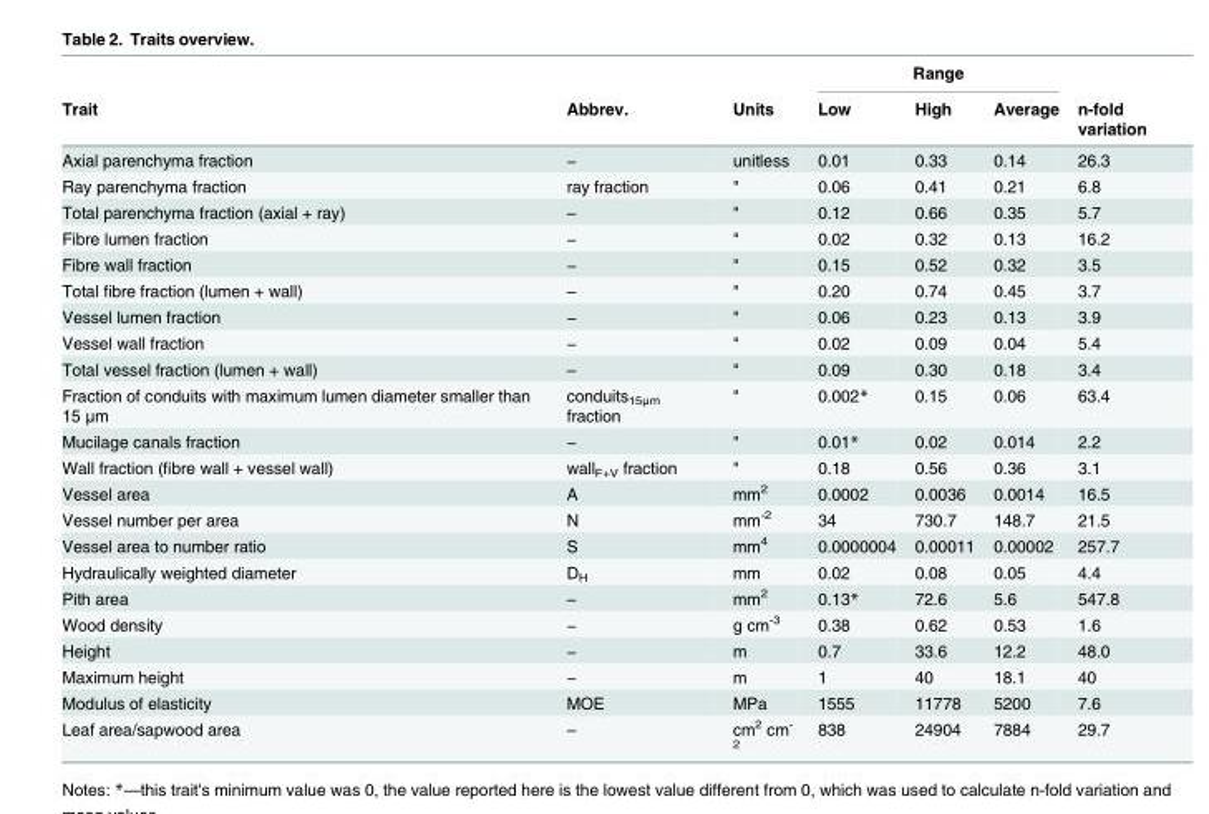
<table><thead><tr><td rowspan="2">Trait</td><td rowspan="2">Abbrev.</td><td rowspan="2">Units</td><td colspan="3">Range</td><td rowspan="2">n-fold variation</td></tr><tr><td>Low</td><td>High</td><td>Average</td></tr></thead><tbody><tr><td>Axial parenchyma fraction</td><td>−</td><td>unitless</td><td>0.01</td><td>0.33</td><td>0.14</td><td>26.3</td></tr><tr><td>Ray parenchyma fraction</td><td>ray fraction</td><td>&quot;</td><td>0.06</td><td>0.41</td><td>0.21</td><td>6.8</td></tr><tr><td>Total parenchyma fraction (axial + ray)</td><td>–</td><td>&quot;</td><td>0.12</td><td>0.66</td><td>0.35</td><td>5.7</td></tr><tr><td>Fibre lumen fraction</td><td>−</td><td>&quot;</td><td>0.02</td><td>0.32</td><td>0.13</td><td>16.2</td></tr><tr><td>Fibre wall fraction</td><td>−</td><td>&quot;</td><td>0.15</td><td>0.52</td><td>0.32</td><td>3.5</td></tr><tr><td>Total fibre fraction (lumen + wall)</td><td>–</td><td>&quot;</td><td>0.20</td><td>0.74</td><td>0.45</td><td>3.7</td></tr><tr><td>Vessel lumen fraction</td><td>−</td><td>&quot;</td><td>0.06</td><td>0.23</td><td>0.13</td><td>3.9</td></tr><tr><td>Vessel wall fraction</td><td>−</td><td>&quot;</td><td>0.02</td><td>0.09</td><td>0.04</td><td>5.4</td></tr><tr><td>Total vessel fraction (lumen + wall)</td><td>–</td><td>&quot;</td><td>0.09</td><td>0.30</td><td>0.18</td><td>3.4</td></tr><tr><td>Fraction of conduits with maximum lumen diameter smaller than 15 μm</td><td>conduits<sub>15μm</sub> fraction</td><td>&quot;</td><td>0.002*</td><td>0.15</td><td>0.06</td><td>63.4</td></tr><tr><td>Mucilage canals fraction</td><td>−</td><td>&quot;</td><td>0.01*</td><td>0.02</td><td>0.014</td><td>2.2</td></tr><tr><td>Wall fraction (fibre wall + vessel wall)</td><td>wall<sub>F+V</sub> fraction</td><td>&quot;</td><td>0.18</td><td>0.56</td><td>0.36</td><td>3.1</td></tr><tr><td>Vessel area</td><td>A</td><td>mm<sup>2</sup></td><td>0.0002</td><td>0.0036</td><td>0.0014</td><td>16.5</td></tr><tr><td>Vessel number per area</td><td>N</td><td>mm<sup>-2</sup></td><td>34</td><td>730.7</td><td>148.7</td><td>21.5</td></tr><tr><td>Vessel area to number ratio</td><td>S</td><td>mm<sup>4</sup></td><td>0.0000004</td><td>0.00011</td><td>0.00002</td><td>257.7</td></tr><tr><td>Hydraulically weighted diameter</td><td>D<sub>H</sub></td><td>mm</td><td>0.02</td><td>0.08</td><td>0.05</td><td>4.4</td></tr><tr><td>Pith area</td><td>–</td><td>mm<sup>2</sup></td><td>0.13*</td><td>72.6</td><td>5.6</td><td>547.8</td></tr><tr><td>Wood density</td><td>−</td><td>g cm<sup>-3</sup></td><td>0.38</td><td>0.62</td><td>0.53</td><td>1.6</td></tr><tr><td>Height</td><td>−</td><td>m</td><td>0.7</td><td>33.6</td><td>12.2</td><td>48.0</td></tr><tr><td>Maximum height</td><td>−</td><td>m</td><td>1</td><td>40</td><td>18.1</td><td>40</td></tr><tr><td>Modulus of elasticity</td><td>MOE</td><td>MPa</td><td>1555</td><td>11778</td><td>5200</td><td>7.6</td></tr><tr><td>Leaf area/sapwood area</td><td>–</td><td>cm<sup>2</sup> cm<sup>- 2</sup></td><td>838</td><td>24904</td><td>7884</td><td>29.7</td></tr></tbody></table>